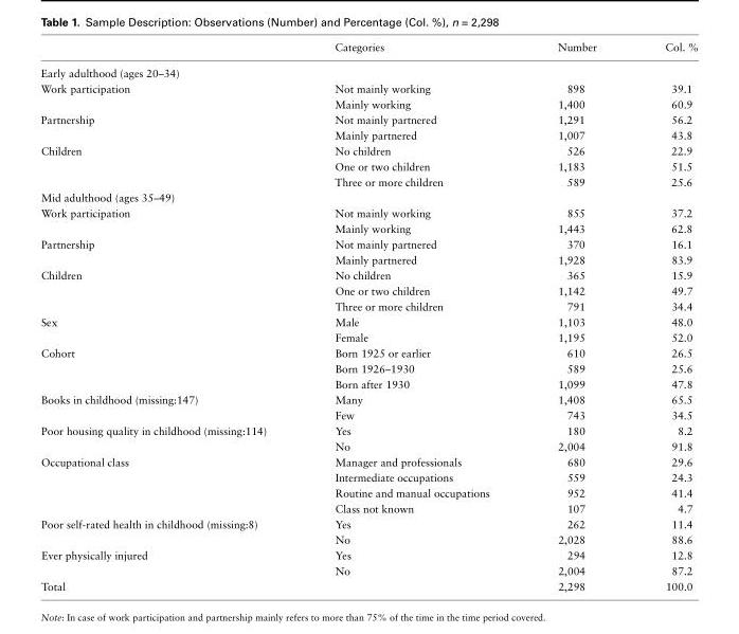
<table><thead><tr><td></td><td>Categories</td><td>Number</td><td>Col. %</td></tr></thead><tbody><tr><td colspan="4">Early adulthood (ages 20–34)</td></tr><tr><td rowspan="2">Work participation</td><td>Not mainly working</td><td>898</td><td>39.1</td></tr><tr><td>Mainly working</td><td>1,400</td><td>60.9</td></tr><tr><td rowspan="2">Partnership</td><td>Not mainly partnered</td><td>1,291</td><td>56.2</td></tr><tr><td>Mainly partnered</td><td>1,007</td><td>43.8</td></tr><tr><td rowspan="3">Children</td><td>No children</td><td>526</td><td>22.9</td></tr><tr><td>One or two children</td><td>1,183</td><td>51.5</td></tr><tr><td>Three or more children</td><td>589</td><td>25.6</td></tr><tr><td colspan="4">Mid adulthood (ages 35–49)</td></tr><tr><td rowspan="2">Work participation</td><td>Not mainly working</td><td>855</td><td>37.2</td></tr><tr><td>Mainly working</td><td>1,443</td><td>62.8</td></tr><tr><td rowspan="2">Partnership</td><td>Not mainly partnered</td><td>370</td><td>16.1</td></tr><tr><td>Mainly partnered</td><td>1,928</td><td>83.9</td></tr><tr><td rowspan="3">Children</td><td>No children</td><td>365</td><td>15.9</td></tr><tr><td>One or two children</td><td>1,142</td><td>49.7</td></tr><tr><td>Three or more children</td><td>791</td><td>34.4</td></tr><tr><td rowspan="2">Sex</td><td>Male</td><td>1,103</td><td>48.0</td></tr><tr><td>Female</td><td>1,195</td><td>52.0</td></tr><tr><td rowspan="3">Cohort</td><td>Born 1925 or earlier</td><td>610</td><td>26.5</td></tr><tr><td>Born 1926–1930</td><td>589</td><td>25.6</td></tr><tr><td>Born after 1930</td><td>1,099</td><td>47.8</td></tr><tr><td rowspan="2">Books in childhood (missing:147)</td><td>Many</td><td>1,408</td><td>65.5</td></tr><tr><td>Few</td><td>743</td><td>34.5</td></tr><tr><td rowspan="2">Poor housing quality in childhood (missing:114)</td><td>Yes</td><td>180</td><td>8.2</td></tr><tr><td>No</td><td>2,004</td><td>91.8</td></tr><tr><td rowspan="4">Occupational class</td><td>Manager and professionals</td><td>680</td><td>29.6</td></tr><tr><td>Intermediate occupations</td><td>559</td><td>24.3</td></tr><tr><td>Routine and manual occupations</td><td>952</td><td>41.4</td></tr><tr><td>Class not known</td><td>107</td><td>4.7</td></tr><tr><td rowspan="2">Poor self-rated health in childhood (missing:8)</td><td>Yes</td><td>262</td><td>11.4</td></tr><tr><td>No</td><td>2,028</td><td>88.6</td></tr><tr><td rowspan="2">Ever physically injured</td><td>Yes</td><td>294</td><td>12.8</td></tr><tr><td>No</td><td>2,004</td><td>87.2</td></tr><tr><td>Total</td><td></td><td>2,298</td><td>100.0</td></tr></tbody></table>